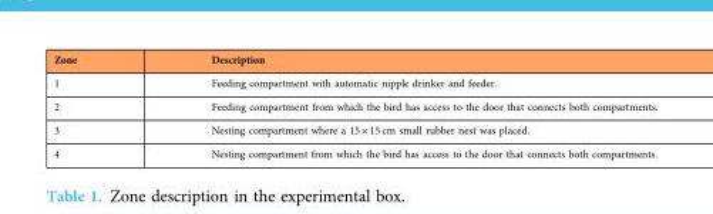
<table><thead><tr><td>Zone</td><td>Description</td></tr></thead><tbody><tr><td>1</td><td>Feeding compartment with automatic nipple drinker and feeder.</td></tr><tr><td>2</td><td>Feeding compartment from which the bird has access to the door that connects both compartments.</td></tr><tr><td>3</td><td>Nesting compartment where a 15 × 15 cm small rubber nest was placed.</td></tr><tr><td>4</td><td>Nesting compartment from which the bird has access to the door that connects both compartments.</td></tr></tbody></table>